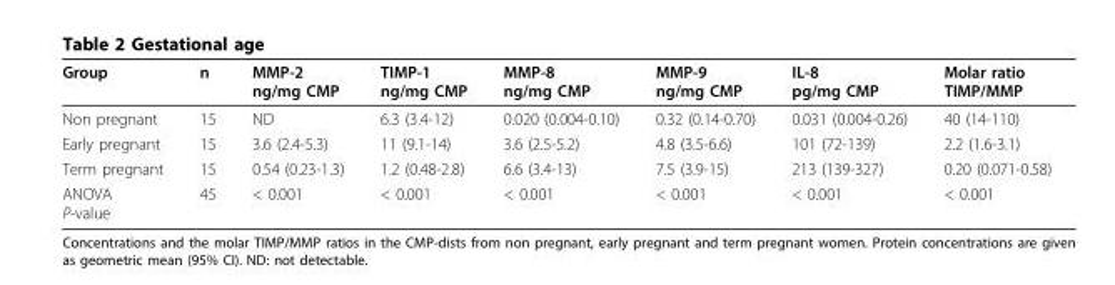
<table><thead><tr><td>Group</td><td>n</td><td>MMP-2 ng/mg CMP</td><td>TIMP-1 ng/mg CMP</td><td>MMP-8 ng/mg CMP</td><td>MMP-9 ng/mg CMP</td><td>IL-8 pg/mg CMP</td><td>Molar ratio TIMP/MMP</td></tr></thead><tbody><tr><td>Non pregnant</td><td>15</td><td>ND</td><td>6.3 (3.4-12)</td><td>0.020 (0.004-0.10)</td><td>0.32 (0.14-0.70)</td><td>0.031 (0.004-0.26)</td><td>40 (14-110)</td></tr><tr><td>Early pregnant</td><td>15</td><td>3.6 (2.4-5.3)</td><td>11 (9.1-14)</td><td>3.6 (2.5-5.2)</td><td>4.8 (3.5-6.6)</td><td>101 (72-139)</td><td>2.2 (1.6-3.1)</td></tr><tr><td>Term pregnant</td><td>15</td><td>0.54 (0.23-1.3)</td><td>1.2 (0.48-2.8)</td><td>6.6 (3.4-13)</td><td>7.5 (3.9-15)</td><td>213 (139-327)</td><td>0.20 (0.071-0.58)</td></tr><tr><td>ANOVA P-value</td><td>45</td><td>&lt; 0.001</td><td>&lt; 0.001</td><td>&lt; 0.001</td><td>&lt; 0.001</td><td>&lt; 0.001</td><td>&lt; 0.001</td></tr></tbody></table>